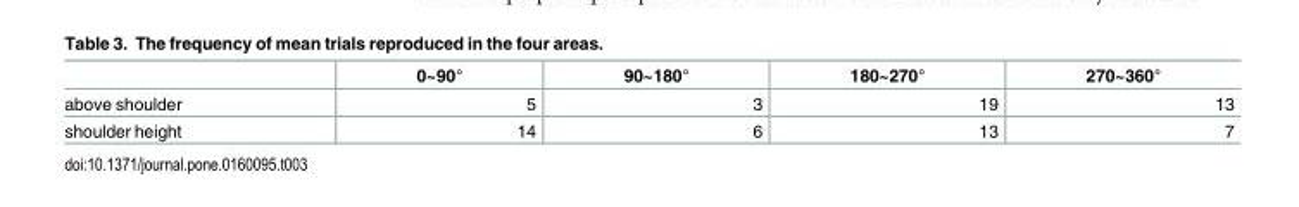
<table><thead><tr><td></td><td>0~90°</td><td>90~180°</td><td>180~270°</td><td>270~360°</td></tr></thead><tbody><tr><td>above shoulder</td><td>5</td><td>3</td><td>19</td><td>13</td></tr><tr><td>shoulder height</td><td>14</td><td>6</td><td>13</td><td>7</td></tr></tbody></table>